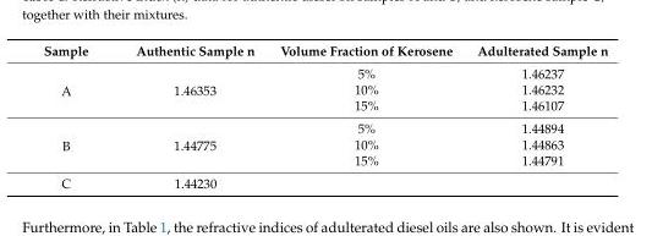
<table><thead><tr><td>Sample</td><td>Authentic Sample n</td><td>Volume Fraction of Kerosene</td><td>Adulterated Sample n</td></tr></thead><tbody><tr><td rowspan="3">A</td><td rowspan="3">1.46353</td><td>5%</td><td>1.46237</td></tr><tr><td>10%</td><td>1.46232</td></tr><tr><td>15%</td><td>1.46107</td></tr><tr><td rowspan="3">B</td><td rowspan="3">1.44775</td><td>5%</td><td>1.44894</td></tr><tr><td>10%</td><td>1.44863</td></tr><tr><td>15%</td><td>1.44791</td></tr><tr><td>C</td><td>1.44230</td><td></td><td></td></tr></tbody></table>